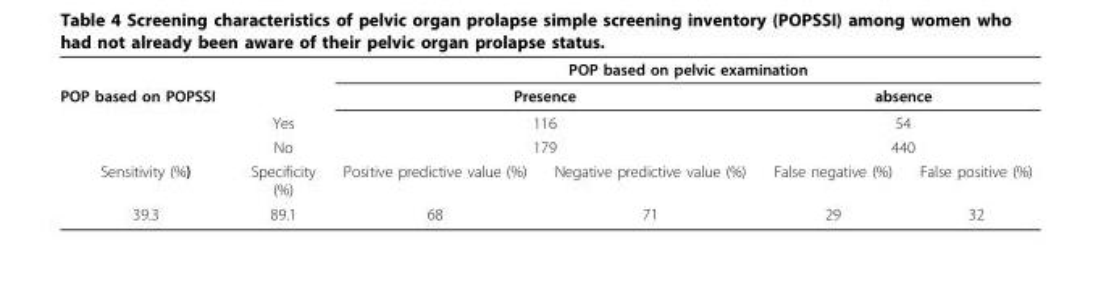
<table><thead><tr><td></td><td></td><td colspan="4">POP based on pelvic examination</td></tr></thead><tbody><tr><td rowspan="3">POP based on POPSSI</td><td></td><td colspan="2">Presence</td><td colspan="2">absence</td></tr><tr><td>Yes</td><td colspan="2">116</td><td colspan="2">54</td></tr><tr><td>No</td><td colspan="2">179</td><td colspan="2">440</td></tr><tr><td>Sensitivity (%)</td><td>Specificity (%)</td><td>Positive predictive value (%)</td><td>Negative predictive value (%)</td><td>False negative (%)</td><td>False positive (%)</td></tr><tr><td>39.3</td><td>89.1</td><td>68</td><td>71</td><td>29</td><td>32</td></tr></tbody></table>